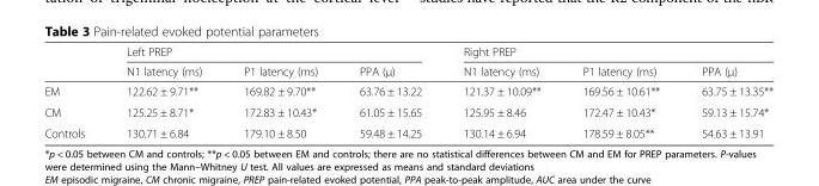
<table><thead><tr><td rowspan="2"></td><td colspan="3">Left PREP</td><td colspan="3">Right PREP</td></tr><tr><td>N1 latency (ms)</td><td>P1 latency (ms)</td><td>PPA (μ)</td><td>N1 latency (ms)</td><td>P1 latency (ms)</td><td>PPA (μ)</td></tr></thead><tbody><tr><td>EM</td><td>122.62 ± 9.71**</td><td>169.82 ± 9.70**</td><td>63.76 ± 13.22</td><td>121.37 ± 10.09**</td><td>169.56 ± 10.61**</td><td>63.75 ± 13.35**</td></tr><tr><td>CM</td><td>125.25 ± 8.71*</td><td>172.83 ± 10.43*</td><td>61.05 ± 15.65</td><td>125.95 ± 8.46</td><td>172.47 ± 10.43*</td><td>59.13 ± 15.74*</td></tr><tr><td>Controls</td><td>130.71 ± 6.84</td><td>179.10 ± 8.50</td><td>59.48 ± 14.25</td><td>130.14 ± 6.94</td><td>178.59 ± 8.05**</td><td>54.63 ± 13.91</td></tr></tbody></table>